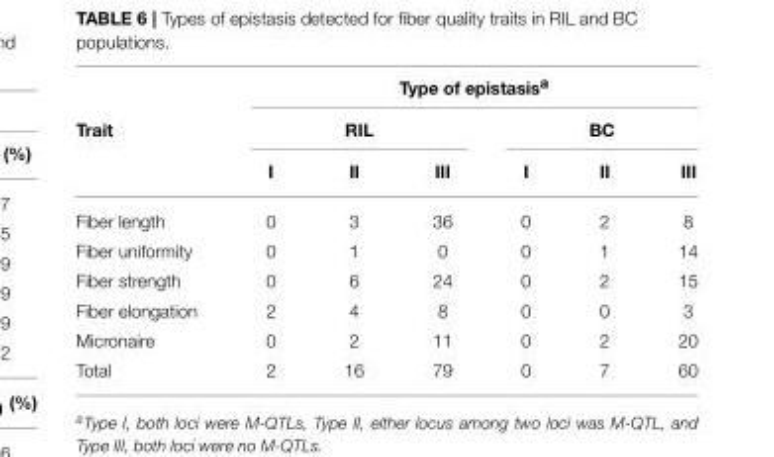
<table><thead><tr><td rowspan="3">Trait</td><td colspan="6">Type of epistasis<sup>a</sup></td></tr><tr><td colspan="3">RIL</td><td colspan="3">BC</td></tr><tr><td>I</td><td>II</td><td>III</td><td>I</td><td>II</td><td>III</td></tr></thead><tbody><tr><td>Fiber length</td><td>0</td><td>3</td><td>36</td><td>0</td><td>2</td><td>8</td></tr><tr><td>Fiber uniformity</td><td>0</td><td>1</td><td>0</td><td>0</td><td>1</td><td>14</td></tr><tr><td>Fiber strength</td><td>0</td><td>6</td><td>24</td><td>0</td><td>2</td><td>15</td></tr><tr><td>Fiber elongation</td><td>2</td><td>4</td><td>8</td><td>0</td><td>0</td><td>3</td></tr><tr><td>Micronaire</td><td>0</td><td>2</td><td>11</td><td>0</td><td>2</td><td>20</td></tr><tr><td>Total</td><td>2</td><td>16</td><td>79</td><td>0</td><td>7</td><td>60</td></tr></tbody></table>